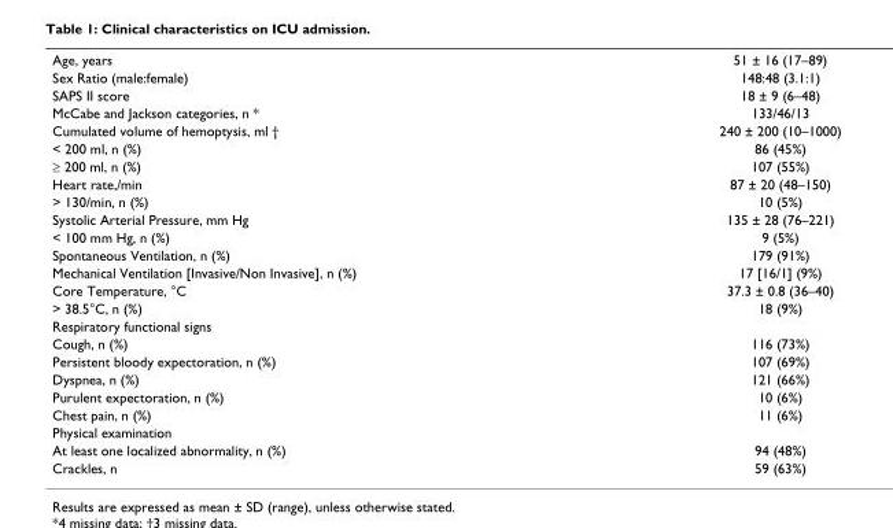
<table><tbody><tr><td>Age, years</td><td>51 ± 16 (17–89)</td></tr><tr><td>Sex Ratio (male:female)</td><td>148:48 (3.1:1)</td></tr><tr><td>SAPS II score</td><td>18 ± 9 (6–48)</td></tr><tr><td>McCabe and Jackson categories, n *</td><td>133/46/13</td></tr><tr><td>Cumulated volume of hemoptysis, ml †</td><td>240 ± 200 (10–1000)</td></tr><tr><td>&lt; 200 ml, n (%)</td><td>86 (45%)</td></tr><tr><td>≥ 200 ml, n (%)</td><td>107 (55%)</td></tr><tr><td>Heart rate,/min</td><td>87 ± 20 (48–150)</td></tr><tr><td>&gt; 130/min, n (%)</td><td>10 (5%)</td></tr><tr><td>Systolic Arterial Pressure, mm Hg</td><td>135 ± 28 (76–221)</td></tr><tr><td>&lt; 100 mm Hg, n (%)</td><td>9 (5%)</td></tr><tr><td>Spontaneous Ventilation, n (%)</td><td>179 (91%)</td></tr><tr><td>Mechanical Ventilation [Invasive/Non Invasive], n (%)</td><td>17 [16/1] (9%)</td></tr><tr><td>Core Temperature, °C</td><td>37.3 ± 0.8 (36–40)</td></tr><tr><td>&gt; 38.5°C, n (%)</td><td>18 (9%)</td></tr><tr><td colspan="2">Respiratory functional signs</td></tr><tr><td>Cough, n (%)</td><td>116 (73%)</td></tr><tr><td>Persistent bloody expectoration, n (%)</td><td>107 (69%)</td></tr><tr><td>Dyspnea, n (%)</td><td>121 (66%)</td></tr><tr><td>Purulent expectoration, n (%)</td><td>10 (6%)</td></tr><tr><td>Chest pain, n (%)</td><td>11 (6%)</td></tr><tr><td colspan="2">Physical examination</td></tr><tr><td>At least one localized abnormality, n (%)</td><td>94 (48%)</td></tr><tr><td>Crackles, n</td><td>59 (63%)</td></tr></tbody></table>